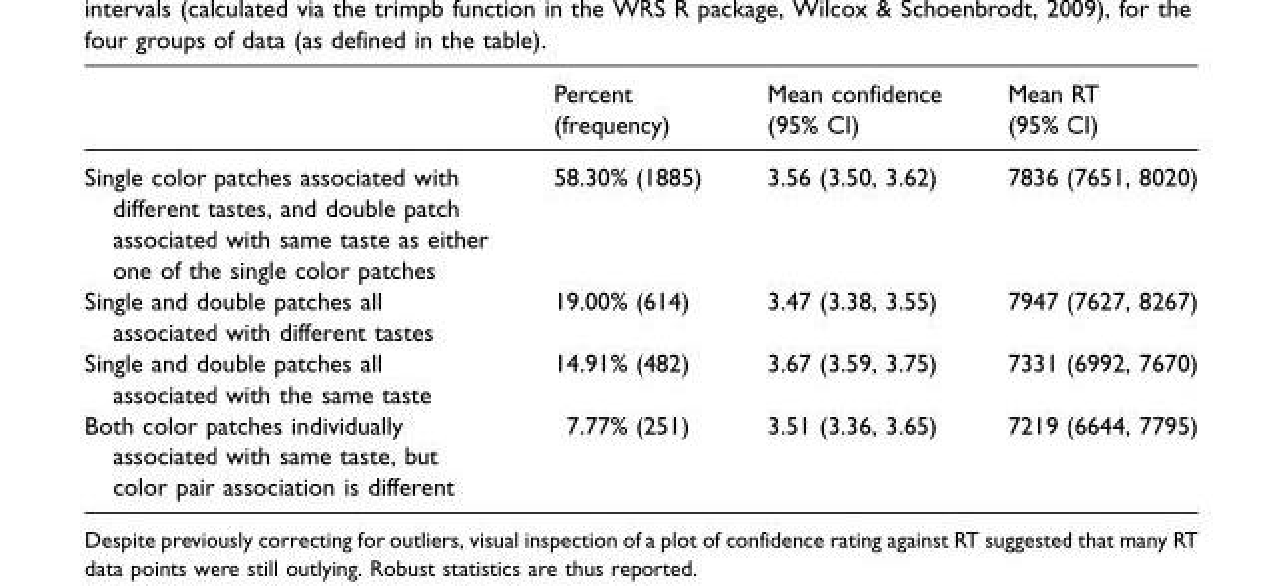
<table><thead><tr><td></td><td>Percent (frequency)</td><td>Mean confidence (95% CI)</td><td>Mean RT (95% CI)</td></tr></thead><tbody><tr><td>Single color patches associated with different tastes, and double patch associated with same taste as either one of the single color patches</td><td>58.30% (1885)</td><td>3.56 (3.50, 3.62)</td><td>7836 (7651, 8020)</td></tr><tr><td>Single and double patches all associated with different tastes</td><td>19.00% (614)</td><td>3.47 (3.38, 3.55)</td><td>7947 (7627, 8267)</td></tr><tr><td>Single and double patches all associated with the same taste</td><td>14.91% (482)</td><td>3.67 (3.59, 3.75)</td><td>7331 (6992, 7670)</td></tr><tr><td>Both color patches individually associated with same taste, but color pair association is different</td><td>7.77% (251)</td><td>3.51 (3.36, 3.65)</td><td>7219 (6644, 7795)</td></tr></tbody></table>